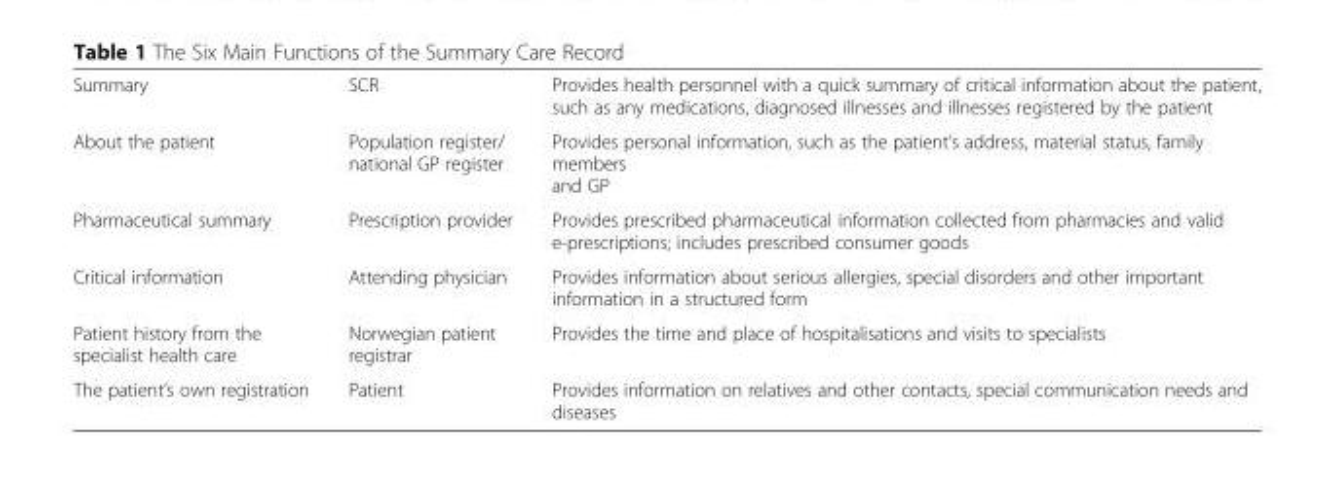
<table><tbody><tr><td>Summary</td><td>SCR</td><td>Provides health personnel with a quick summary of critical information about the patient, such as any medications, diagnosed illnesses and illnesses registered by the patient</td></tr><tr><td>About the patient</td><td>Population register/ national GP register</td><td>Provides personal information, such as the patient’s address, material status, family members and GP</td></tr><tr><td>Pharmaceutical summary</td><td>Prescription provider</td><td>Provides prescribed pharmaceutical information collected from pharmacies and valid e-prescriptions; includes prescribed consumer goods</td></tr><tr><td>Critical information</td><td>Attending physician</td><td>Provides information about serious allergies, special disorders and other important information in a structured form</td></tr><tr><td>Patient history from the specialist health care</td><td>Norwegian patient registrar</td><td>Provides the time and place of hospitalisations and visits to specialists</td></tr><tr><td>The patient’s own registration</td><td>Patient</td><td>Provides information on relatives and other contacts, special communication needs and diseases</td></tr></tbody></table>